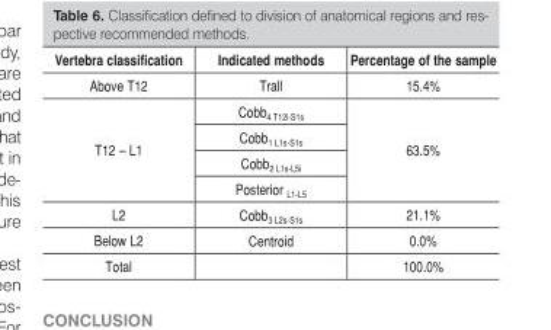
<table><thead><tr><td>Vertebra classification</td><td>Indicated methods</td><td>Percentage of the sample</td></tr></thead><tbody><tr><td>Above T12</td><td>Trall</td><td>15.4%</td></tr><tr><td rowspan="4">T12 – L1</td><td>Cobb<sub>4 T12i-S1s</sub></td><td rowspan="4">63.5%</td></tr><tr><td>Cobb<sub>1 L1s-S1s</sub></td></tr><tr><td>Cobb<sub>2 L1s-L5i</sub></td></tr><tr><td>Posterior <sub>L1-L5</sub></td></tr><tr><td>L2</td><td>Cobb<sub>3 L2s-S1s</sub></td><td>21.1%</td></tr><tr><td>Below L2</td><td>Centroid</td><td>0.0%</td></tr><tr><td>Total</td><td></td><td>100.0%</td></tr></tbody></table>